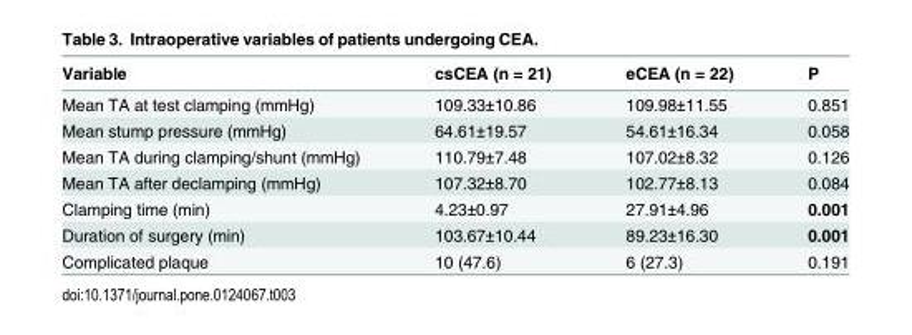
<table><thead><tr><td>Variable</td><td>csCEA (n = 21)</td><td>eCEA (n = 22)</td><td>P</td></tr></thead><tbody><tr><td>Mean TA at test clamping (mmHg)</td><td>109.33±10.86</td><td>109.98±11.55</td><td>0.851</td></tr><tr><td>Mean stump pressure (mmHg)</td><td>64.61±19.57</td><td>54.61±16.34</td><td>0.058</td></tr><tr><td>Mean TA during clamping/shunt (mmHg)</td><td>110.79±7.48</td><td>107.02±8.32</td><td>0.126</td></tr><tr><td>Mean TA after declamping (mmHg)</td><td>107.32±8.70</td><td>102.77±8.13</td><td>0.084</td></tr><tr><td>Clamping time (min)</td><td>4.23±0.97</td><td>27.91±4.96</td><td>0.001</td></tr><tr><td>Duration of surgery (min)</td><td>103.67±10.44</td><td>89.23±16.30</td><td>0.001</td></tr><tr><td>Complicated plaque</td><td>10 (47.6)</td><td>6 (27.3)</td><td>0.191</td></tr></tbody></table>